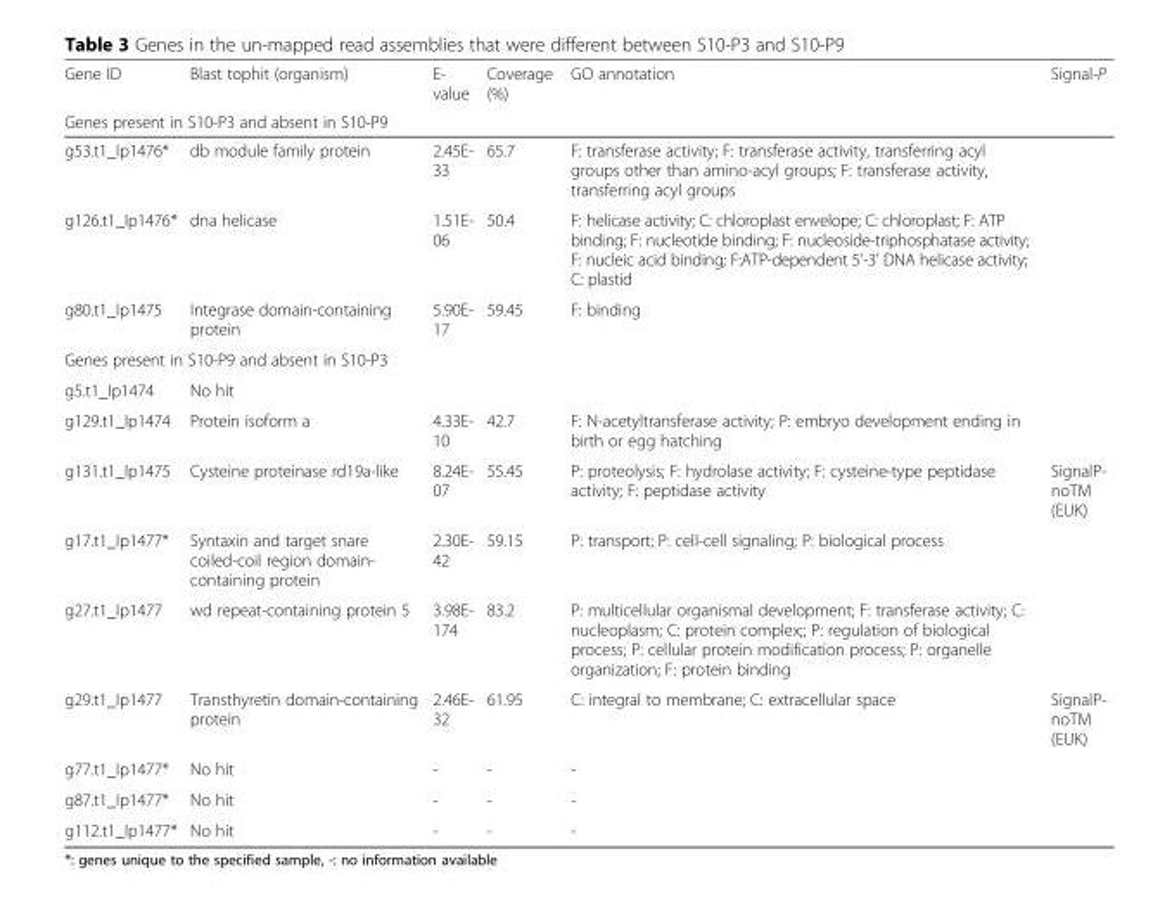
<table><thead><tr><td>Gene ID</td><td>Blast tophit (organism)</td><td>E- value</td><td>Coverage (%)</td><td>GO annotation</td><td>Signal-P</td></tr><tr><td colspan="6">Genes present in S10-P3 and absent in S10-P9</td></tr></thead><tbody><tr><td>g53.t1_Ip1476*</td><td>db module family protein</td><td>2.45E- 33</td><td>65.7</td><td>F: transferase activity; F: transferase activity, transferring acyl groups other than amino-acyl groups; F: transferase activity, transferring acyl groups</td><td></td></tr><tr><td>g126.t1_Ip1476*</td><td>dna helicase</td><td>1.51E- 06</td><td>50.4</td><td>F: helicase activity; C: chloroplast envelope; C: chloroplast; F: ATP binding; F: nucleotide binding; F: nucleoside-triphosphatase activity; F: nucleic acid binding; F:ATP-dependent 5’-3’ DNA helicase activity; C: plastid</td><td></td></tr><tr><td>g80.t1_Ip1475</td><td>Integrase domain-containing protein</td><td>5.90E- 17</td><td>59.45</td><td>F: binding</td><td></td></tr><tr><td colspan="6">Genes present in S10-P9 and absent in S10-P3</td></tr><tr><td>g5.t1_Ip1474</td><td>No hit</td><td></td><td></td><td></td><td></td></tr><tr><td>g129.t1_Ip1474</td><td>Protein isoform a</td><td>4.33E- 10</td><td>42.7</td><td>F: N-acetyltransferase activity; P: embryo development ending in birth or egg hatching</td><td></td></tr><tr><td>g131.t1_Ip1475</td><td>Cysteine proteinase rd19a-like</td><td>8.24E- 07</td><td>55.45</td><td>P: proteolysis; F: hydrolase activity; F: cysteine-type peptidase activity; F: peptidase activity</td><td>SignalP- noTM (EUK)</td></tr><tr><td>g17.t1_Ip1477*</td><td>Syntaxin and target snare coiled-coil region domain- containing protein</td><td>2.30E- 42</td><td>59.15</td><td>P: transport; P: cell-cell signaling; P: biological process</td><td></td></tr><tr><td>g27.t1_Ip1477</td><td>wd repeat-containing protein 5</td><td>3.98E- 174</td><td>83.2</td><td>P: multicellular organismal development; F: transferase activity; C: nucleoplasm; C: protein complex;; P: regulation of biological process; P: cellular protein modification process; P: organelle organization; F: protein binding</td><td></td></tr><tr><td>g29.t1_Ip1477</td><td>Transthyretin domain-containing protein</td><td>2.46E- 32</td><td>61.95</td><td>C: integral to membrane; C: extracellular space</td><td>SignalP- noTM (EUK)</td></tr><tr><td>g77.t1_Ip1477*</td><td>No hit</td><td>-</td><td>-</td><td>-</td><td></td></tr><tr><td>g87.t1_Ip1477*</td><td>No hit</td><td>-</td><td>-</td><td>-</td><td></td></tr><tr><td>g112.t1_Ip1477*</td><td>No hit</td><td>-</td><td>-</td><td>-</td><td></td></tr></tbody></table>